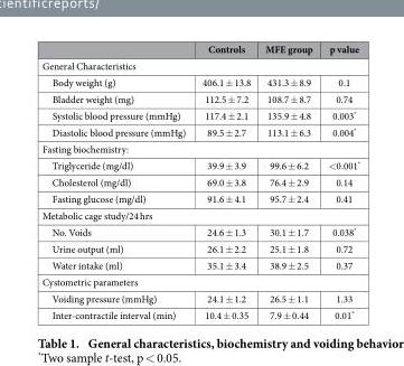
<table><thead><tr><td></td><td>Controls</td><td>MFE group</td><td>p value</td></tr></thead><tbody><tr><td colspan="4">General Characteristics</td></tr><tr><td>Body weight (g)</td><td>406.1 ± 13.8</td><td>431.3 ± 8.9</td><td>0.1</td></tr><tr><td>Bladder weight (mg)</td><td>112.5 ± 7.2</td><td>108.7 ± 8.7</td><td>0.74</td></tr><tr><td>Systolic blood pressure (mmHg)</td><td>117.4 ± 2.1</td><td>135.9 ± 4.8</td><td>0.003*</td></tr><tr><td>Diastolic blood pressure (mmHg)</td><td>89.5 ± 2.7</td><td>113.1 ± 6.3</td><td>0.004*</td></tr><tr><td colspan="4">Fasting biochemistry:</td></tr><tr><td>Triglyceride (mg/dl)</td><td>39.9 ± 3.9</td><td>99.6 ± 6.2</td><td>&lt; 0.001*</td></tr><tr><td>Cholesterol (mg/dl)</td><td>69.0 ± 3.8</td><td>76.4 ± 2.9</td><td>0.14</td></tr><tr><td>Fasting glucose (mg/dl)</td><td>91.6 ± 4.1</td><td>95.7 ± 2.4</td><td>0.41</td></tr><tr><td colspan="4">Metabolic cage study/24 hrs</td></tr><tr><td>No. Voids</td><td>24.6 ± 1.3</td><td>30.1 ± 1.7</td><td>0.038*</td></tr><tr><td>Urine output (ml)</td><td>26.1 ± 2.2</td><td>25.1 ± 1.8</td><td>0.72</td></tr><tr><td>Water intake (ml)</td><td>35.1 ± 3.4</td><td>38.9 ± 2.5</td><td>0.37</td></tr><tr><td colspan="4">Cystometric parameters</td></tr><tr><td>Voiding pressure (mmHg)</td><td>24.1 ± 1.2</td><td>26.5 ± 1.1</td><td>1.33</td></tr><tr><td>Inter-contractile interval (min)</td><td>10.4 ± 0.35</td><td>7.9 ± 0.44</td><td>0.01*</td></tr></tbody></table>